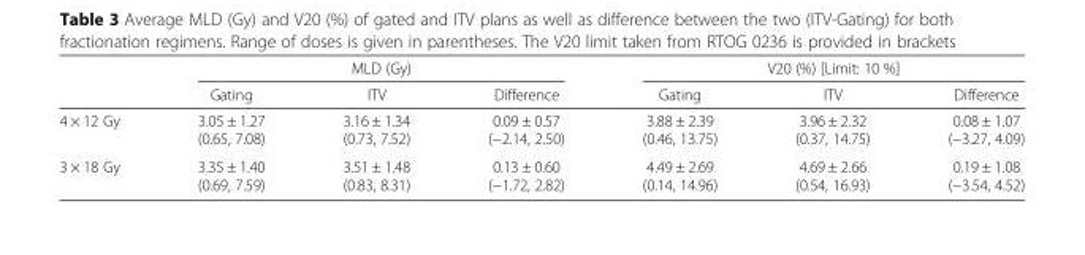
<table><thead><tr><td rowspan="2"></td><td colspan="3">MLD (Gy)</td><td colspan="3">V20 (%) [Limit: 10 %]</td></tr><tr><td>Gating</td><td>ITV</td><td>Difference</td><td>Gating</td><td>ITV</td><td>Difference</td></tr></thead><tbody><tr><td>4 × 12 Gy</td><td>3.05 ± 1.27 (0.65, 7.08)</td><td>3.16 ± 1.34 (0.73, 7.52)</td><td>0.09 ± 0.57 (−2.14, 2.50)</td><td>3.88 ± 2.39 (0.46, 13.75)</td><td>3.96 ± 2.32 (0.37, 14.75)</td><td>0.08 ± 1.07 (−3.27, 4.09)</td></tr><tr><td>3 × 18 Gy</td><td>3.35 ± 1.40 (0.69, 7.59)</td><td>3.51 ± 1.48 (0.83, 8.31)</td><td>0.13 ± 0.60 (−1.72, 2.82)</td><td>4.49 ± 2.69 (0.14, 14.96)</td><td>4.69 ± 2.66 (0.54, 16.93)</td><td>0.19 ± 1.08 (−3.54, 4.52)</td></tr></tbody></table>